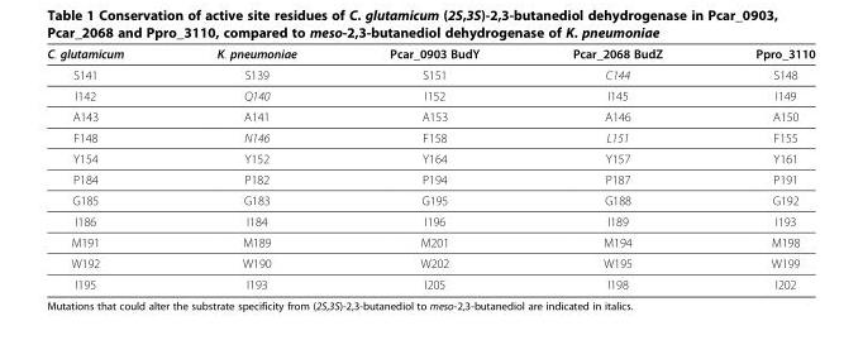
<table><thead><tr><td>C. glutamicum</td><td>K. pneumoniae</td><td>Pcar_0903 BudY</td><td>Pcar_2068 BudZ</td><td>Ppro_3110</td></tr></thead><tbody><tr><td>S141</td><td>S139</td><td>S151</td><td>C144</td><td>S148</td></tr><tr><td>I142</td><td>Q140</td><td>I152</td><td>I145</td><td>I149</td></tr><tr><td>A143</td><td>A141</td><td>A153</td><td>A146</td><td>A150</td></tr><tr><td>F148</td><td>N146</td><td>F158</td><td>L151</td><td>F155</td></tr><tr><td>Y154</td><td>Y152</td><td>Y164</td><td>Y157</td><td>Y161</td></tr><tr><td>P184</td><td>P182</td><td>P194</td><td>P187</td><td>P191</td></tr><tr><td>G185</td><td>G183</td><td>G195</td><td>G188</td><td>G192</td></tr><tr><td>I186</td><td>I184</td><td>I196</td><td>I189</td><td>I193</td></tr><tr><td>M191</td><td>M189</td><td>M201</td><td>M194</td><td>M198</td></tr><tr><td>W192</td><td>W190</td><td>W202</td><td>W195</td><td>W199</td></tr><tr><td>I195</td><td>I193</td><td>I205</td><td>I198</td><td>I202</td></tr></tbody></table>